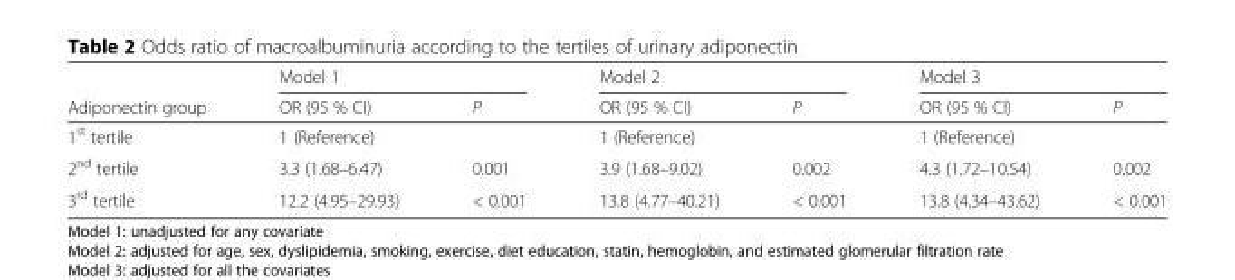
<table><thead><tr><td rowspan="2">Adiponectin group</td><td colspan="2">Model 1</td><td colspan="2">Model 2</td><td colspan="2">Model 3</td></tr><tr><td>OR (95 % CI)</td><td>P</td><td>OR (95 % CI)</td><td>P</td><td>OR (95 % CI)</td><td>P</td></tr></thead><tbody><tr><td>1<sup>st</sup> tertile</td><td>1 (Reference)</td><td></td><td>1 (Reference)</td><td></td><td>1 (Reference)</td><td></td></tr><tr><td>2<sup>nd</sup> tertile</td><td>3.3 (1.68–6.47)</td><td>0.001</td><td>3.9 (1.68–9.02)</td><td>0.002</td><td>4.3 (1.72–10.54)</td><td>0.002</td></tr><tr><td>3<sup>rd</sup> tertile</td><td>12.2 (4.95–29.93)</td><td>&lt; 0.001</td><td>13.8 (4.77–40.21)</td><td>&lt; 0.001</td><td>13.8 (4.34–43.62)</td><td>&lt; 0.001</td></tr></tbody></table>